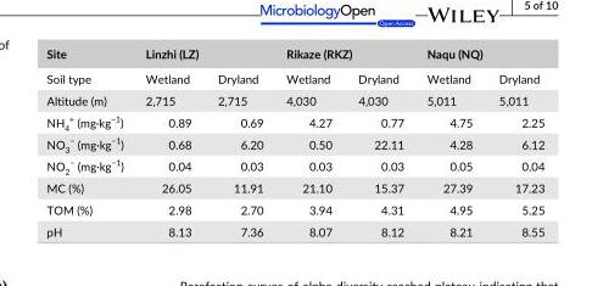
<table><thead><tr><td rowspan="2">Site Soil type</td><td colspan="2">Linzhi (LZ)</td><td colspan="2">Rikaze (RKZ)</td><td colspan="2">Naqu (NQ)</td></tr><tr><td>Wetland</td><td>Dryland</td><td>Wetland</td><td>Dryland</td><td>Wetland</td><td>Dryland</td></tr></thead><tbody><tr><td>Altitude (m)</td><td>2,715</td><td>2,715</td><td>4,030</td><td>4,030</td><td>5,011</td><td>5,011</td></tr><tr><td>NH<sub>4</sub> <sup>+</sup> (mg·kg<sup>−1</sup>)</td><td>0.89</td><td>0.69</td><td>4.27</td><td>0.77</td><td>4.75</td><td>2.25</td></tr><tr><td>NO<sub>3</sub> <sup>−</sup> (mg·kg<sup>−1</sup>)</td><td>0.68</td><td>6.20</td><td>0.50</td><td>22.11</td><td>4.28</td><td>6.12</td></tr><tr><td>NO<sub>2</sub> <sup>−</sup> (mg·kg<sup>−1</sup>)</td><td>0.04</td><td>0.03</td><td>0.03</td><td>0.03</td><td>0.05</td><td>0.04</td></tr><tr><td>MC (%)</td><td>26.05</td><td>11.91</td><td>21.10</td><td>15.37</td><td>27.39</td><td>17.23</td></tr><tr><td>TOM (%)</td><td>2.98</td><td>2.70</td><td>3.94</td><td>4.31</td><td>4.95</td><td>5.25</td></tr><tr><td>pH</td><td>8.13</td><td>7.36</td><td>8.07</td><td>8.12</td><td>8.21</td><td>8.55</td></tr></tbody></table>